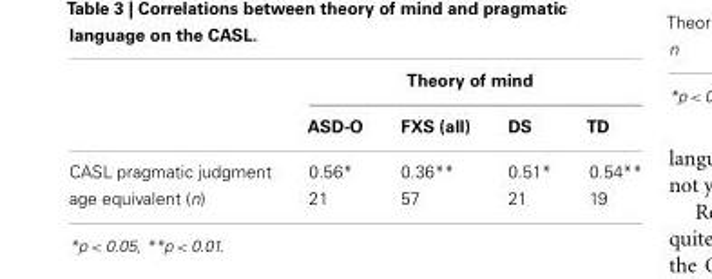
<table><thead><tr><td rowspan="2"></td><td colspan="4">Theory of mind</td></tr><tr><td>ASD-O</td><td>FXS (all)</td><td>DS</td><td>TD</td></tr></thead><tbody><tr><td>CASL pragmatic judgment</td><td>0.56*</td><td>0.36**</td><td>0.51*</td><td>0.54**</td></tr><tr><td>age equivalent (n)</td><td>21</td><td>57</td><td>21</td><td>19</td></tr></tbody></table>